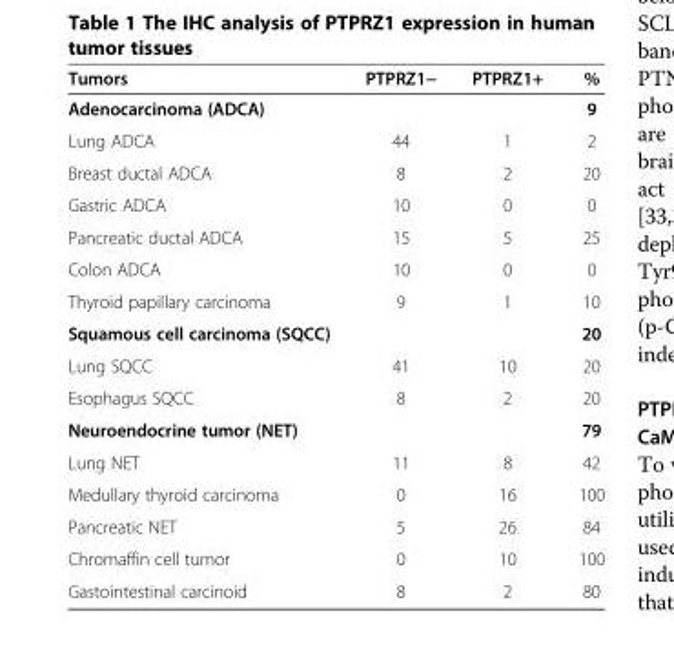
<table><thead><tr><td>Tumors</td><td>PTPRZ1−</td><td>PTPRZ1+</td><td>%</td></tr></thead><tbody><tr><td>Adenocarcinoma (ADCA)</td><td></td><td></td><td>9</td></tr><tr><td>Lung ADCA</td><td>44</td><td>1</td><td>2</td></tr><tr><td>Breast ductal ADCA</td><td>8</td><td>2</td><td>20</td></tr><tr><td>Gastric ADCA</td><td>10</td><td>0</td><td>0</td></tr><tr><td>Pancreatic ductal ADCA</td><td>15</td><td>5</td><td>25</td></tr><tr><td>Colon ADCA</td><td>10</td><td>0</td><td>0</td></tr><tr><td>Thyroid papillary carcinoma</td><td>9</td><td>1</td><td>10</td></tr><tr><td>Squamous cell carcinoma (SQCC)</td><td></td><td></td><td>20</td></tr><tr><td>Lung SQCC</td><td>41</td><td>10</td><td>20</td></tr><tr><td>Esophagus SQCC</td><td>8</td><td>2</td><td>20</td></tr><tr><td>Neuroendocrine tumor (NET)</td><td></td><td></td><td>79</td></tr><tr><td>Lung NET</td><td>11</td><td>8</td><td>42</td></tr><tr><td>Medullary thyroid carcinoma</td><td>0</td><td>16</td><td>100</td></tr><tr><td>Pancreatic NET</td><td>5</td><td>26</td><td>84</td></tr><tr><td>Chromaffin cell tumor</td><td>0</td><td>10</td><td>100</td></tr><tr><td>Gastointestinal carcinoid</td><td>8</td><td>2</td><td>80</td></tr></tbody></table>